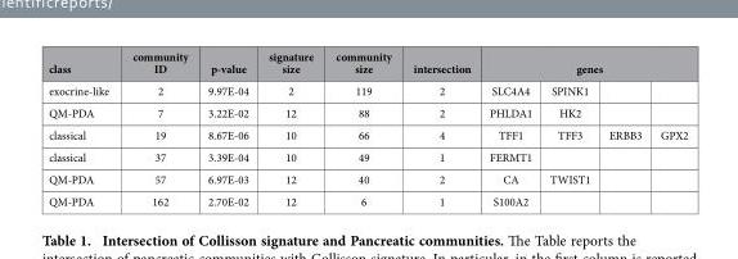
<table><thead><tr><td rowspan="2">class exocrine-like</td><td rowspan="2">community ID 2</td><td rowspan="2">p-value 9.97E-04</td><td rowspan="2">signature size 2</td><td rowspan="2">community size 119</td><td rowspan="2">intersection 2</td><td colspan="4">genes</td></tr><tr><td>SLC4A4</td><td>SPINK1</td><td></td><td></td></tr></thead><tbody><tr><td>QM-PDA</td><td>7</td><td>3.22E-02</td><td>12</td><td>88</td><td>2</td><td>PHLDA1</td><td>HK2</td><td></td><td></td></tr><tr><td>classical</td><td>19</td><td>8.67E-06</td><td>10</td><td>66</td><td>4</td><td>TFF1</td><td>TFF3</td><td>ERBB3</td><td>GPX2</td></tr><tr><td>classical</td><td>37</td><td>3.39E-04</td><td>10</td><td>49</td><td>1</td><td>FERMT1</td><td></td><td></td><td></td></tr><tr><td>QM-PDA</td><td>57</td><td>6.97E-03</td><td>12</td><td>40</td><td>2</td><td>CA</td><td>TWIST1</td><td></td><td></td></tr><tr><td>QM-PDA</td><td>162</td><td>2.70E-02</td><td>12</td><td>6</td><td>1</td><td>S100A2</td><td></td><td></td><td></td></tr></tbody></table>